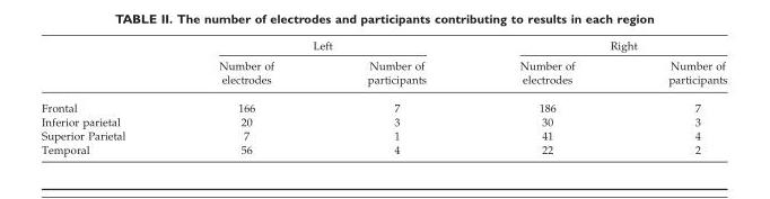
<table><thead><tr><td rowspan="2"></td><td colspan="2">Left</td><td colspan="2">Right</td></tr><tr><td>Number of electrodes</td><td>Number of participants</td><td>Number of electrodes</td><td>Number of participants</td></tr></thead><tbody><tr><td>Frontal</td><td>166</td><td>7</td><td>186</td><td>7</td></tr><tr><td>Inferior parietal</td><td>20</td><td>3</td><td>30</td><td>3</td></tr><tr><td>Superior Parietal</td><td>7</td><td>1</td><td>41</td><td>4</td></tr><tr><td>Temporal</td><td>56</td><td>4</td><td>22</td><td>2</td></tr></tbody></table>